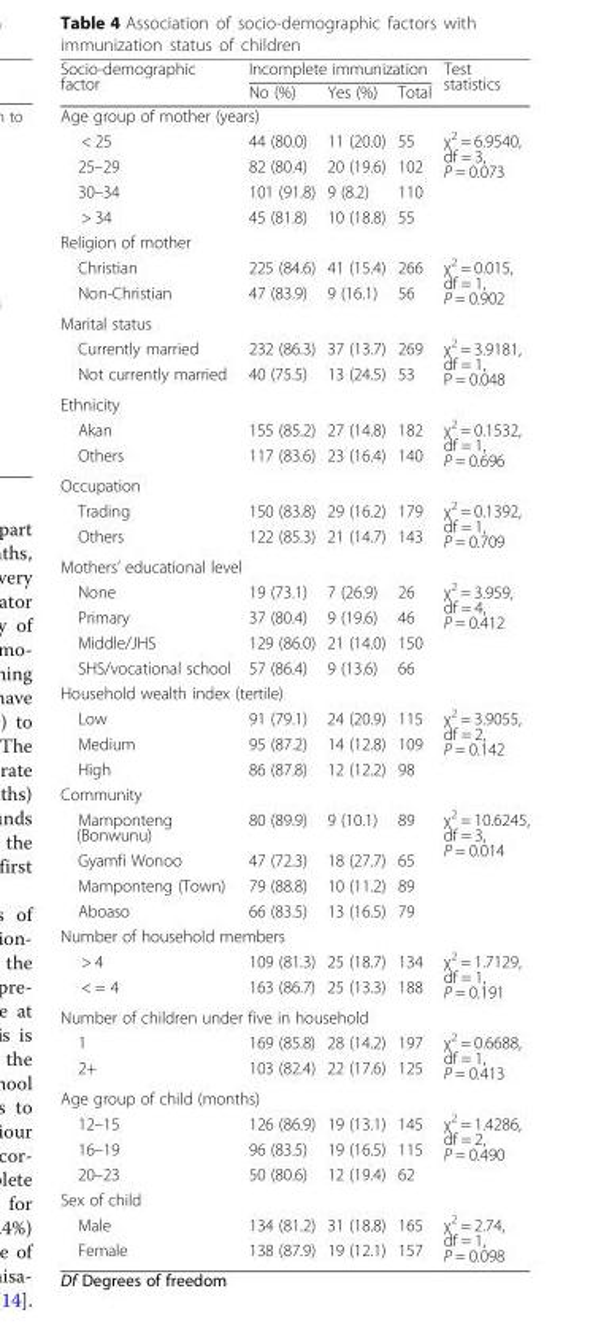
<table><thead><tr><td rowspan="2">Socio-demographic factor</td><td colspan="3">Incomplete immunization</td><td rowspan="2">Test statistics</td></tr><tr><td>No (%)</td><td>Yes (%)</td><td>Total</td></tr></thead><tbody><tr><td colspan="5">Age group of mother (years)</td></tr><tr><td>&lt; 25</td><td>44 (80.0)</td><td>11 (20.0)</td><td>55</td><td rowspan="4">χ<sup>2</sup> = 6.9540, df = 3, P = 0.073</td></tr><tr><td>25–29</td><td>82 (80.4)</td><td>20 (19.6)</td><td>102</td></tr><tr><td>30–34</td><td>101 (91.8)</td><td>9 (8.2)</td><td>110</td></tr><tr><td>&gt; 34</td><td>45 (81.8)</td><td>10 (18.8)</td><td>55</td></tr><tr><td colspan="5">Religion of mother</td></tr><tr><td>Christian</td><td>225 (84.6)</td><td>41 (15.4)</td><td>266</td><td rowspan="2">χ<sup>2</sup> = 0.015, df = 1, P = 0.902</td></tr><tr><td>Non-Christian</td><td>47 (83.9)</td><td>9 (16.1)</td><td>56</td></tr><tr><td colspan="5">Marital status</td></tr><tr><td>Currently married</td><td>232 (86.3)</td><td>37 (13.7)</td><td>269</td><td rowspan="2">χ<sup>2</sup> = 3.9181, df = 1, P = 0.048</td></tr><tr><td>Not currently married</td><td>40 (75.5)</td><td>13 (24.5)</td><td>53</td></tr><tr><td colspan="5">Ethnicity</td></tr><tr><td>Akan</td><td>155 (85.2)</td><td>27 (14.8)</td><td>182</td><td rowspan="2">χ<sup>2</sup> = 0.1532, df = 1, P = 0.696</td></tr><tr><td>Others</td><td>117 (83.6)</td><td>23 (16.4)</td><td>140</td></tr><tr><td colspan="5">Occupation</td></tr><tr><td>Trading</td><td>150 (83.8)</td><td>29 (16.2)</td><td>179</td><td rowspan="2">χ<sup>2</sup> = 0.1392, df = 1, P = 0.709</td></tr><tr><td>Others</td><td>122 (85.3)</td><td>21 (14.7)</td><td>143</td></tr><tr><td colspan="5">Mothers’ educational level</td></tr><tr><td>None</td><td>19 (73.1)</td><td>7 (26.9)</td><td>26</td><td rowspan="4">χ<sup>2</sup> = 3.959, df = 4, P = 0.412</td></tr><tr><td>Primary</td><td>37 (80.4)</td><td>9 (19.6)</td><td>46</td></tr><tr><td>Middle/JHS</td><td>129 (86.0)</td><td>21 (14.0)</td><td>150</td></tr><tr><td>SHS/vocational school</td><td>57 (86.4)</td><td>9 (13.6)</td><td>66</td></tr><tr><td colspan="5">Household wealth index (tertile)</td></tr><tr><td>Low</td><td>91 (79.1)</td><td>24 (20.9)</td><td>115</td><td rowspan="3">χ<sup>2</sup> = 3.9055, df = 2, P = 0.142</td></tr><tr><td>Medium</td><td>95 (87.2)</td><td>14 (12.8)</td><td>109</td></tr><tr><td>High</td><td>86 (87.8)</td><td>12 (12.2)</td><td>98</td></tr><tr><td colspan="5">Community</td></tr><tr><td>Mamponteng (Bonwunu)</td><td>80 (89.9)</td><td>9 (10.1)</td><td>89</td><td rowspan="4">χ<sup>2</sup> = 10.6245, df = 3, P = 0.014</td></tr><tr><td>Gyamfi Wonoo</td><td>47 (72.3)</td><td>18 (27.7)</td><td>65</td></tr><tr><td>Mamponteng (Town)</td><td>79 (88.8)</td><td>10 (11.2)</td><td>89</td></tr><tr><td>Aboaso</td><td>66 (83.5)</td><td>13 (16.5)</td><td>79</td></tr><tr><td colspan="5">Number of household members</td></tr><tr><td>&gt; 4</td><td>109 (81.3)</td><td>25 (18.7)</td><td>134</td><td rowspan="2">χ<sup>2</sup> = 1.7129, df = 1, P = 0.191</td></tr><tr><td>&lt; = 4</td><td>163 (86.7)</td><td>25 (13.3)</td><td>188</td></tr><tr><td colspan="5">Number of children under five in household</td></tr><tr><td>1</td><td>169 (85.8)</td><td>28 (14.2)</td><td>197</td><td rowspan="2">χ<sup>2</sup> = 0.6688, df = 1, P = 0.413</td></tr><tr><td>2+</td><td>103 (82.4)</td><td>22 (17.6)</td><td>125</td></tr><tr><td colspan="5">Age group of child (months)</td></tr><tr><td>12–15</td><td>126 (86.9)</td><td>19 (13.1)</td><td>145</td><td rowspan="3">χ<sup>2</sup> = 1.4286, df = 2, P = 0.490</td></tr><tr><td>16–19</td><td>96 (83.5)</td><td>19 (16.5)</td><td>115</td></tr><tr><td>20–23</td><td>50 (80.6)</td><td>12 (19.4)</td><td>62</td></tr><tr><td colspan="5">Sex of child</td></tr><tr><td>Male</td><td>134 (81.2)</td><td>31 (18.8)</td><td>165</td><td rowspan="2">χ<sup>2</sup> = 2.74, df = 1, P = 0.098</td></tr><tr><td>Female</td><td>138 (87.9)</td><td>19 (12.1)</td><td>157</td></tr></tbody></table>